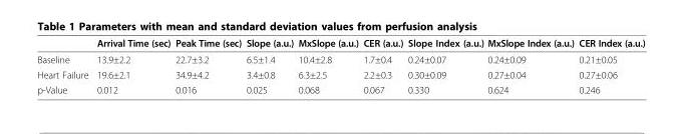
<table><thead><tr><td></td><td>Arrival Time (sec)</td><td>Peak Time (sec)</td><td>Slope (a.u.)</td><td>MxSlope (a.u.)</td><td>CER (a.u.)</td><td>Slope Index (a.u.)</td><td>MxSlope Index (a.u.)</td><td>CER Index (a.u.)</td></tr></thead><tbody><tr><td>Baseline</td><td>13.9±2.2</td><td>22.7±3.2</td><td>6.5±1.4</td><td>10.4±2.8</td><td>1.7±0.4</td><td>0.24±0.07</td><td>0.24±0.09</td><td>0.21±0.05</td></tr><tr><td>Heart Failure</td><td>19.6±2.1</td><td>34.9±4.2</td><td>3.4±0.8</td><td>6.3±2.5</td><td>2.2±0.3</td><td>0.30±0.09</td><td>0.27±0.04</td><td>0.27±0.06</td></tr><tr><td>p-Value</td><td>0.012</td><td>0.016</td><td>0.025</td><td>0.068</td><td>0.067</td><td>0.330</td><td>0.624</td><td>0.246</td></tr></tbody></table>